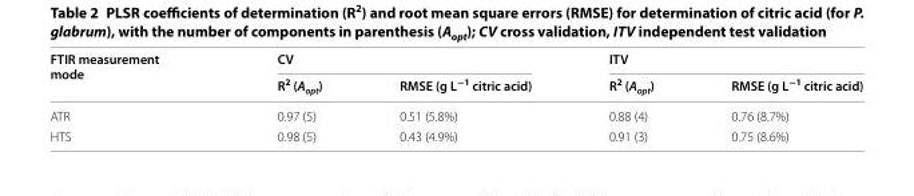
<table><thead><tr><td rowspan="2">FTIR measurement mode</td><td colspan="2">CV</td><td colspan="2">ITV</td></tr><tr><td>R<sup>2</sup> (A<sub>opt</sub>)</td><td>RMSE (g L<sup>−1</sup> citric acid)</td><td>R<sup>2</sup> (A<sub>opt</sub>)</td><td>RMSE (g L<sup>−1</sup> citric acid)</td></tr></thead><tbody><tr><td>ATR</td><td>0.97 (5)</td><td>0.51 (5.8%)</td><td>0.88 (4)</td><td>0.76 (8.7%)</td></tr><tr><td>HTS</td><td>0.98 (5)</td><td>0.43 (4.9%)</td><td>0.91 (3)</td><td>0.75 (8.6%)</td></tr></tbody></table>